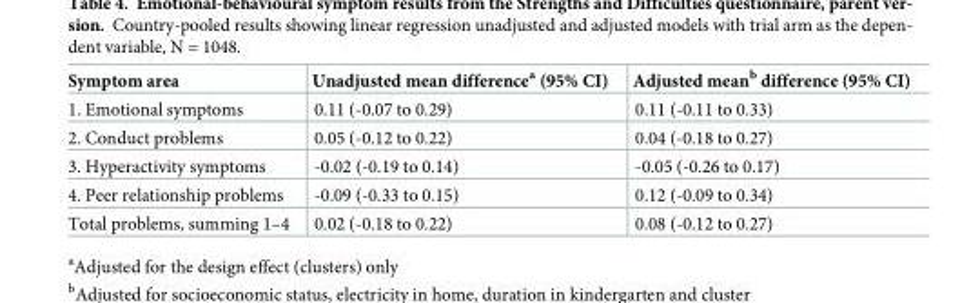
<table><thead><tr><td>Symptom area</td><td>Unadjusted mean difference<sup>a</sup> (95% CI)</td><td>Adjusted mean<sup>b</sup> difference (95% CI)</td></tr></thead><tbody><tr><td>1. Emotional symptoms</td><td>0.11 (-0.07 to 0.29)</td><td>0.11 (-0.11 to 0.33)</td></tr><tr><td>2. Conduct problems</td><td>0.05 (-0.12 to 0.22)</td><td>0.04 (-0.18 to 0.27)</td></tr><tr><td>3. Hyperactivity symptoms</td><td>-0.02 (-0.19 to 0.14)</td><td>-0.05 (-0.26 to 0.17)</td></tr><tr><td>4. Peer relationship problems</td><td>-0.09 (-0.33 to 0.15)</td><td>0.12 (-0.09 to 0.34)</td></tr><tr><td>Total problems, summing 1–4</td><td>0.02 (-0.18 to 0.22)</td><td>0.08 (-0.12 to 0.27)</td></tr></tbody></table>